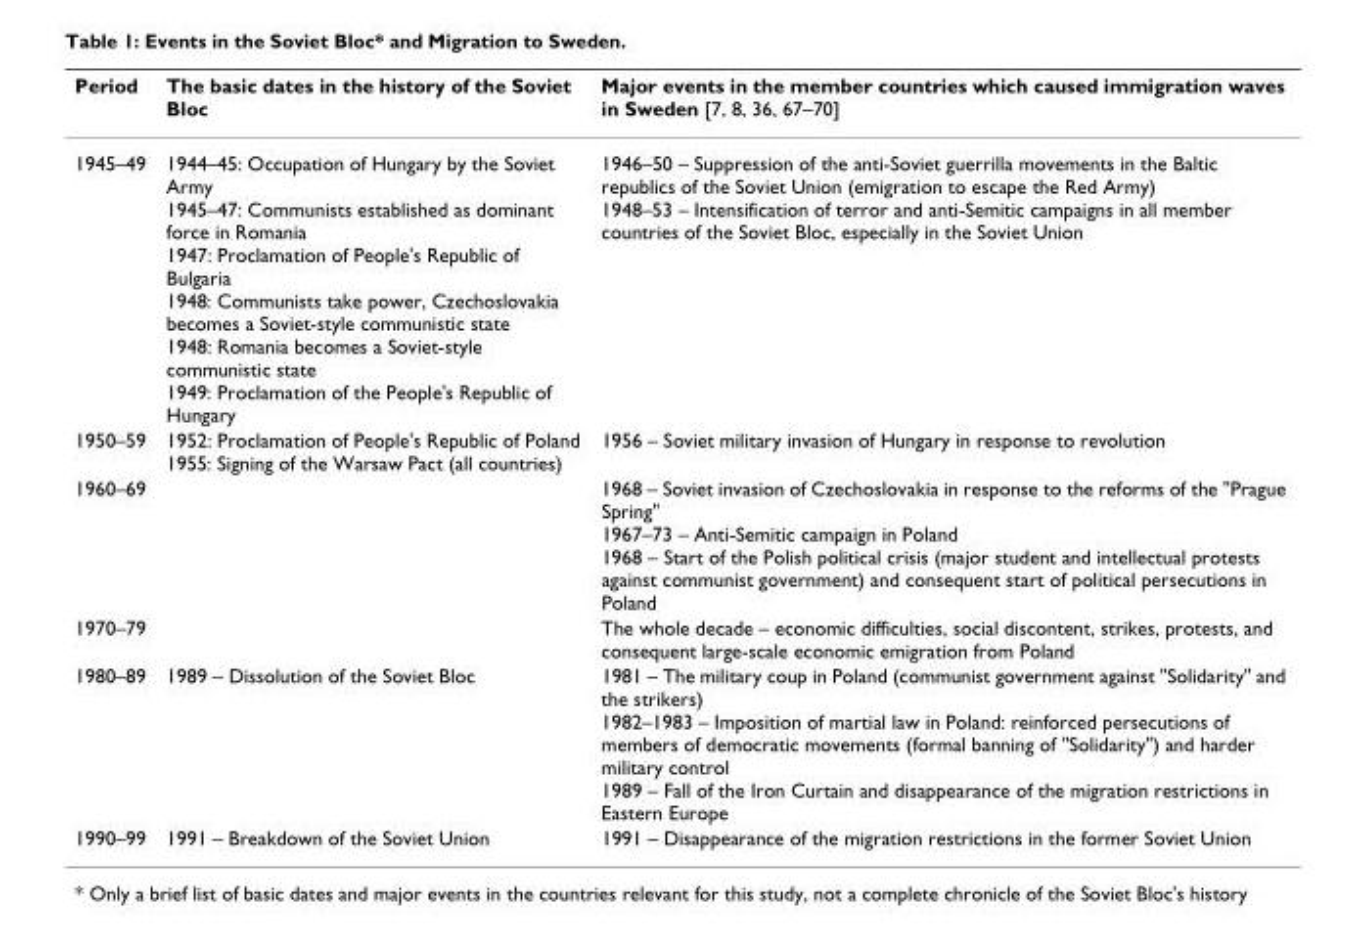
<table><thead><tr><td>Period</td><td>The basic dates in the history of the Soviet Bloc</td><td>Major events in the member countries which caused immigration waves in Sweden [7, 8, 36, 67–70]</td></tr></thead><tbody><tr><td>1945–49</td><td>1944–45: Occupation of Hungary by the Soviet Army 1945–47: Communists established as dominant force in Romania 1947: Proclamation of People&#x27;s Republic of Bulgaria 1948: Communists take power, Czechoslovakia becomes a Soviet-style communistic state 1948: Romania becomes a Soviet-style communistic state 1949: Proclamation of the People&#x27;s Republic of Hungary</td><td>1946–50 – Suppression of the anti-Soviet guerrilla movements in the Baltic republics of the Soviet Union (emigration to escape the Red Army) 1948–53 – Intensification of terror and anti-Semitic campaigns in all member countries of the Soviet Bloc, especially in the Soviet Union</td></tr><tr><td>1950–59</td><td>1952: Proclamation of People&#x27;s Republic of Poland 1955: Signing of the Warsaw Pact (all countries)</td><td>1956 – Soviet military invasion of Hungary in response to revolution</td></tr><tr><td>1960–69</td><td></td><td>1968 – Soviet invasion of Czechoslovakia in response to the reforms of the &quot;Prague Spring&quot; 1967–73 – Anti-Semitic campaign in Poland 1968 – Start of the Polish political crisis (major student and intellectual protests against communist government) and consequent start of political persecutions in Poland</td></tr><tr><td>1970–79</td><td></td><td>The whole decade – economic difficulties, social discontent, strikes, protests, and consequent large-scale economic emigration from Poland</td></tr><tr><td>1980–89</td><td>1989 – Dissolution of the Soviet Bloc</td><td>1981 – The military coup in Poland (communist government against &quot;Solidarity&quot; and the strikers) 1982–1983 – Imposition of martial law in Poland: reinforced persecutions of members of democratic movements (formal banning of &quot;Solidarity&quot;) and harder military control 1989 – Fall of the Iron Curtain and disappearance of the migration restrictions in Eastern Europe</td></tr><tr><td>1990–99</td><td>1991 – Breakdown of the Soviet Union</td><td>1991 – Disappearance of the migration restrictions in the former Soviet Union</td></tr></tbody></table>